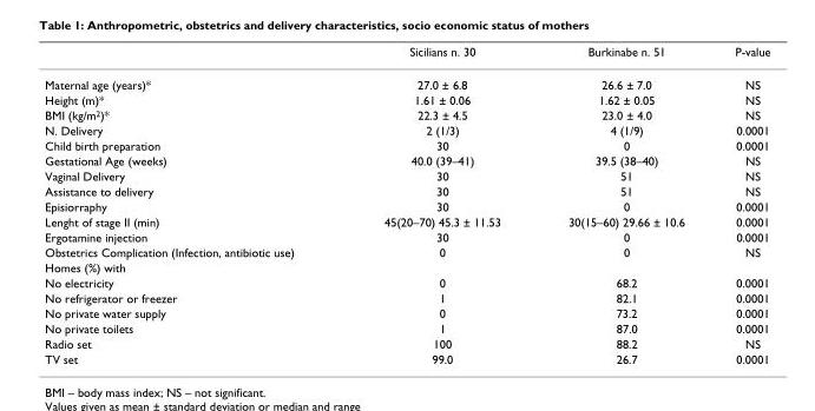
<table><thead><tr><td></td><td>Sicilians n. 30</td><td>Burkinabe n. 51</td><td>P-value</td></tr></thead><tbody><tr><td>Maternal age (years)*</td><td>27.0 ± 6.8</td><td>26.6 ± 7.0</td><td>NS</td></tr><tr><td>Height (m)*</td><td>1.61 ± 0.06</td><td>1.62 ± 0.05</td><td>NS</td></tr><tr><td>BMI (kg/m<sup>2</sup>)*</td><td>22.3 ± 4.5</td><td>23.0 ± 4.0</td><td>NS</td></tr><tr><td>N. Delivery</td><td>2 (1/3)</td><td>4 (1/9)</td><td>0.0001</td></tr><tr><td>Child birth preparation</td><td>30</td><td>0</td><td>0.0001</td></tr><tr><td>Gestational Age (weeks)</td><td>40.0 (39–41)</td><td>39.5 (38–40)</td><td>NS</td></tr><tr><td>Vaginal Delivery</td><td>30</td><td>51</td><td>NS</td></tr><tr><td>Assistance to delivery</td><td>30</td><td>51</td><td>NS</td></tr><tr><td>Episiorraphy</td><td>30</td><td>0</td><td>0.0001</td></tr><tr><td>Lenght of stage II (min)</td><td>45(20–70) 45.3 ± 11.53</td><td>30(15–60) 29.66 ± 10.6</td><td>0.0001</td></tr><tr><td>Ergotamine injection</td><td>30</td><td>0</td><td>0.0001</td></tr><tr><td>Obstetrics Complication (Infection, antibiotic use)</td><td>0</td><td>0</td><td>NS</td></tr><tr><td colspan="4">Homes (%) with</td></tr><tr><td>No electricity</td><td>0</td><td>68.2</td><td>0.0001</td></tr><tr><td>No refrigerator or freezer</td><td>1</td><td>82.1</td><td>0.0001</td></tr><tr><td>No private water supply</td><td>0</td><td>73.2</td><td>0.0001</td></tr><tr><td>No private toilets</td><td>1</td><td>87.0</td><td>0.0001</td></tr><tr><td>Radio set</td><td>100</td><td>88.2</td><td>NS</td></tr><tr><td>TV set</td><td>99.0</td><td>26.7</td><td>0.0001</td></tr></tbody></table>